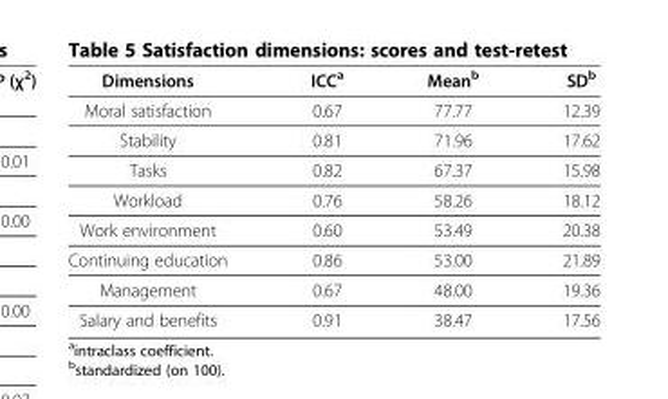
<table><thead><tr><td>Dimensions</td><td>ICC<sup>a</sup></td><td>Mean<sup>b</sup></td><td>SD<sup>b</sup></td></tr></thead><tbody><tr><td>Moral satisfaction</td><td>0.67</td><td>77.77</td><td>12.39</td></tr><tr><td>Stability</td><td>0.81</td><td>71.96</td><td>17.62</td></tr><tr><td>Tasks</td><td>0.82</td><td>67.37</td><td>15.98</td></tr><tr><td>Workload</td><td>0.76</td><td>58.26</td><td>18.12</td></tr><tr><td>Work environment</td><td>0.60</td><td>53.49</td><td>20.38</td></tr><tr><td>Continuing education</td><td>0.86</td><td>53.00</td><td>21.89</td></tr><tr><td>Management</td><td>0.67</td><td>48.00</td><td>19.36</td></tr><tr><td>Salary and benefits</td><td>0.91</td><td>38.47</td><td>17.56</td></tr></tbody></table>